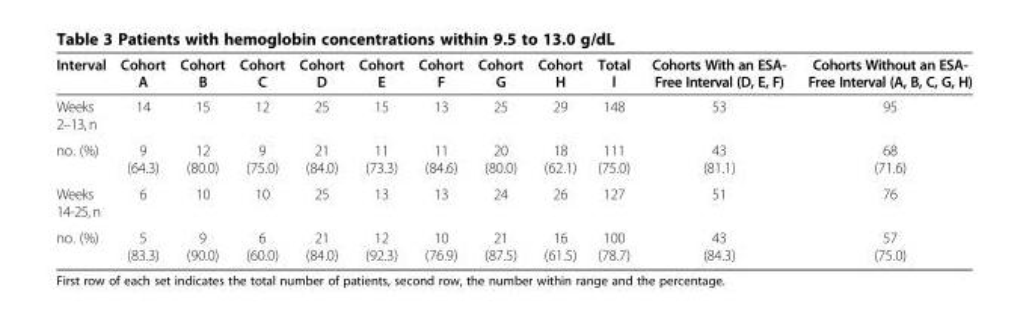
<table><thead><tr><td>Interval</td><td>Cohort A</td><td>Cohort B</td><td>Cohort C</td><td>Cohort D</td><td>Cohort E</td><td>Cohort F</td><td>Cohort G</td><td>Cohort H</td><td>Total l</td><td>Cohorts With an ESA- Free Interval (D, E, F)</td><td>Cohorts Without an ESA- Free Interval (A, B, C, G, H)</td></tr></thead><tbody><tr><td>Weeks 2–13,n</td><td>14</td><td>15</td><td>12</td><td>25</td><td>15</td><td>13</td><td>25</td><td>29</td><td>148</td><td>53</td><td>95</td></tr><tr><td>no. (%)</td><td>9 (64.3)</td><td>12 (80.0)</td><td>9 (75.0)</td><td>21 (84.0)</td><td>11 (73.3)</td><td>11 (84.6)</td><td>20 (80.0)</td><td>18 (62.1)</td><td>111 (75.0)</td><td>43 (81.1)</td><td>68 (71.6)</td></tr><tr><td>Weeks 14-25,n</td><td>6</td><td>10</td><td>10</td><td>25</td><td>13</td><td>13</td><td>24</td><td>26</td><td>127</td><td>51</td><td>76</td></tr><tr><td>no. (%)</td><td>5 (83.3)</td><td>9 (90.0)</td><td>6 (60.0)</td><td>21 (84.0)</td><td>12 (92.3)</td><td>10 (76.9)</td><td>21 (87.5)</td><td>16 (61.5)</td><td>100 (78.7)</td><td>43 (84.3)</td><td>57 (75.0)</td></tr></tbody></table>